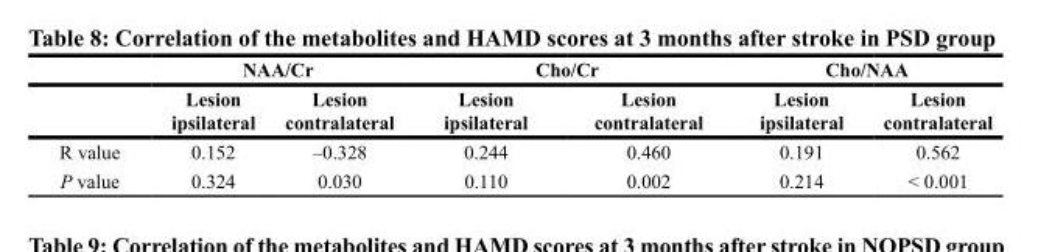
<table><thead><tr><td rowspan="2"></td><td colspan="2">NAA/Cr</td><td colspan="2">Cho/Cr</td><td colspan="2">Cho/NAA</td></tr><tr><td>Lesion ipsilateral</td><td>Lesion contralateral</td><td>Lesion ipsilateral</td><td>Lesion contralateral</td><td>Lesion ipsilateral</td><td>Lesion contralateral</td></tr></thead><tbody><tr><td>R value</td><td>0.152</td><td>–0.328</td><td>0.244</td><td>0.460</td><td>0.191</td><td>0.562</td></tr><tr><td>P value</td><td>0.324</td><td>0.030</td><td>0.110</td><td>0.002</td><td>0.214</td><td>&lt; 0.001</td></tr></tbody></table>